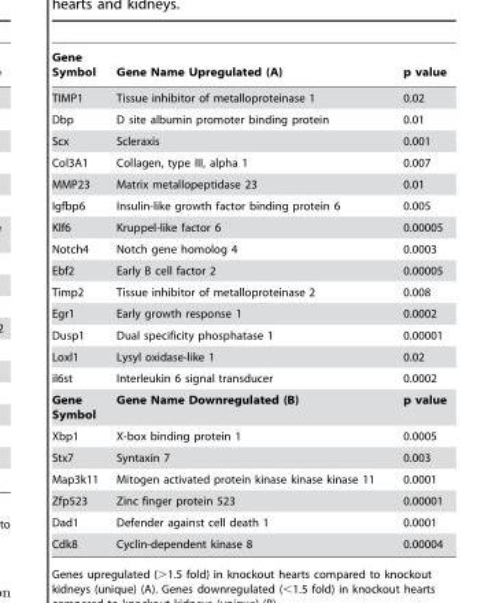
<table><thead><tr><td>Gene Symbol</td><td>Gene Name Upregulated (A)</td><td>p value</td></tr></thead><tbody><tr><td>TIMP1</td><td>Tissue inhibitor of metalloproteinase 1</td><td>0.02</td></tr><tr><td>Dbp</td><td>D site albumin promoter binding protein</td><td>0.01</td></tr><tr><td>Scx</td><td>Scleraxis</td><td>0.001</td></tr><tr><td>Col3A1</td><td>Collagen, type III, alpha 1</td><td>0.007</td></tr><tr><td>MMP23</td><td>Matrix metallopeptidase 23</td><td>0.01</td></tr><tr><td>Igfbp6</td><td>Insulin-like growth factor binding protein 6</td><td>0.005</td></tr><tr><td>Klf6</td><td>Kruppel-like factor 6</td><td>0.00005</td></tr><tr><td>Notch4</td><td>Notch gene homolog 4</td><td>0.0003</td></tr><tr><td>Ebf2</td><td>Early B cell factor 2</td><td>0.00005</td></tr><tr><td>Timp2</td><td>Tissue inhibitor of metalloproteinase 2</td><td>0.008</td></tr><tr><td>Egr1</td><td>Early growth response 1</td><td>0.0002</td></tr><tr><td>Dusp1</td><td>Dual specificity phosphatase 1</td><td>0.00001</td></tr><tr><td>Loxl1</td><td>Lysyl oxidase-like 1</td><td>0.02</td></tr><tr><td>il6st</td><td>Interleukin 6 signal transducer</td><td>0.0002</td></tr><tr><td>Gene Symbol</td><td>Gene Name Downregulated (B)</td><td>p value</td></tr><tr><td>Xbp1</td><td>X-box binding protein 1</td><td>0.0005</td></tr><tr><td>Stx7</td><td>Syntaxin 7</td><td>0.003</td></tr><tr><td>Map3k11</td><td>Mitogen activated protein kinase kinase kinase 11</td><td>0.0001</td></tr><tr><td>Zfp523</td><td>Zinc finger protein 523</td><td>0.00001</td></tr><tr><td>Dad1</td><td>Defender against cell death 1</td><td>0.0001</td></tr><tr><td>Cdk8</td><td>Cyclin-dependent kinase 8</td><td>0.00004</td></tr></tbody></table>